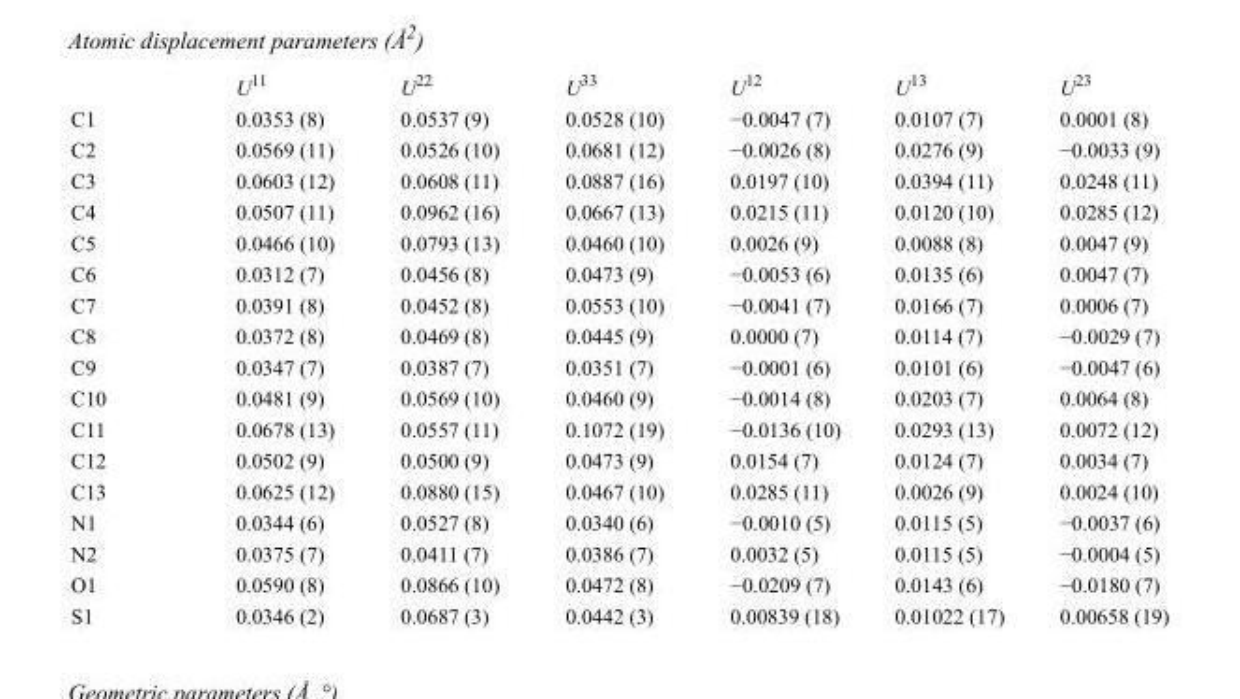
<table><thead><tr><td></td><td>U<sup>11</sup></td><td>U<sup>22</sup></td><td>U<sup>33</sup></td><td>U<sup>12</sup></td><td>U<sup>13</sup></td><td>U<sup>23</sup></td></tr></thead><tbody><tr><td>C1</td><td>0.0353 (8)</td><td>0.0537 (9)</td><td>0.0528 (10)</td><td>−0.0047 (7)</td><td>0.0107 (7)</td><td>0.0001 (8)</td></tr><tr><td>C2</td><td>0.0569 (11)</td><td>0.0526 (10)</td><td>0.0681 (12)</td><td>−0.0026 (8)</td><td>0.0276 (9)</td><td>−0.0033 (9)</td></tr><tr><td>C3</td><td>0.0603 (12)</td><td>0.0608 (11)</td><td>0.0887 (16)</td><td>0.0197 (10)</td><td>0.0394 (11)</td><td>0.0248 (11)</td></tr><tr><td>C4</td><td>0.0507 (11)</td><td>0.0962 (16)</td><td>0.0667 (13)</td><td>0.0215 (11)</td><td>0.0120 (10)</td><td>0.0285 (12)</td></tr><tr><td>C5</td><td>0.0466 (10)</td><td>0.0793 (13)</td><td>0.0460 (10)</td><td>0.0026 (9)</td><td>0.0088 (8)</td><td>0.0047 (9)</td></tr><tr><td>C6</td><td>0.0312 (7)</td><td>0.0456 (8)</td><td>0.0473 (9)</td><td>−0.0053 (6)</td><td>0.0135 (6)</td><td>0.0047 (7)</td></tr><tr><td>C7</td><td>0.0391 (8)</td><td>0.0452 (8)</td><td>0.0553 (10)</td><td>−0.0041 (7)</td><td>0.0166 (7)</td><td>0.0006 (7)</td></tr><tr><td>C8</td><td>0.0372 (8)</td><td>0.0469 (8)</td><td>0.0445 (9)</td><td>0.0000 (7)</td><td>0.0114 (7)</td><td>−0.0029 (7)</td></tr><tr><td>C9</td><td>0.0347 (7)</td><td>0.0387 (7)</td><td>0.0351 (7)</td><td>−0.0001 (6)</td><td>0.0101 (6)</td><td>−0.0047 (6)</td></tr><tr><td>C10</td><td>0.0481 (9)</td><td>0.0569 (10)</td><td>0.0460 (9)</td><td>−0.0014 (8)</td><td>0.0203 (7)</td><td>0.0064 (8)</td></tr><tr><td>C11</td><td>0.0678 (13)</td><td>0.0557 (11)</td><td>0.1072 (19)</td><td>−0.0136 (10)</td><td>0.0293 (13)</td><td>0.0072 (12)</td></tr><tr><td>C12</td><td>0.0502 (9)</td><td>0.0500 (9)</td><td>0.0473 (9)</td><td>0.0154 (7)</td><td>0.0124 (7)</td><td>0.0034 (7)</td></tr><tr><td>C13</td><td>0.0625 (12)</td><td>0.0880 (15)</td><td>0.0467 (10)</td><td>0.0285 (11)</td><td>0.0026 (9)</td><td>0.0024 (10)</td></tr><tr><td>N1</td><td>0.0344 (6)</td><td>0.0527 (8)</td><td>0.0340 (6)</td><td>−0.0010 (5)</td><td>0.0115 (5)</td><td>−0.0037 (6)</td></tr><tr><td>N2</td><td>0.0375 (7)</td><td>0.0411 (7)</td><td>0.0386 (7)</td><td>0.0032 (5)</td><td>0.0115 (5)</td><td>−0.0004 (5)</td></tr><tr><td>O1</td><td>0.0590 (8)</td><td>0.0866 (10)</td><td>0.0472 (8)</td><td>−0.0209 (7)</td><td>0.0143 (6)</td><td>−0.0180 (7)</td></tr><tr><td>S1</td><td>0.0346 (2)</td><td>0.0687 (3)</td><td>0.0442 (3)</td><td>0.00839 (18)</td><td>0.01022 (17)</td><td>0.00658 (19)</td></tr></tbody></table>